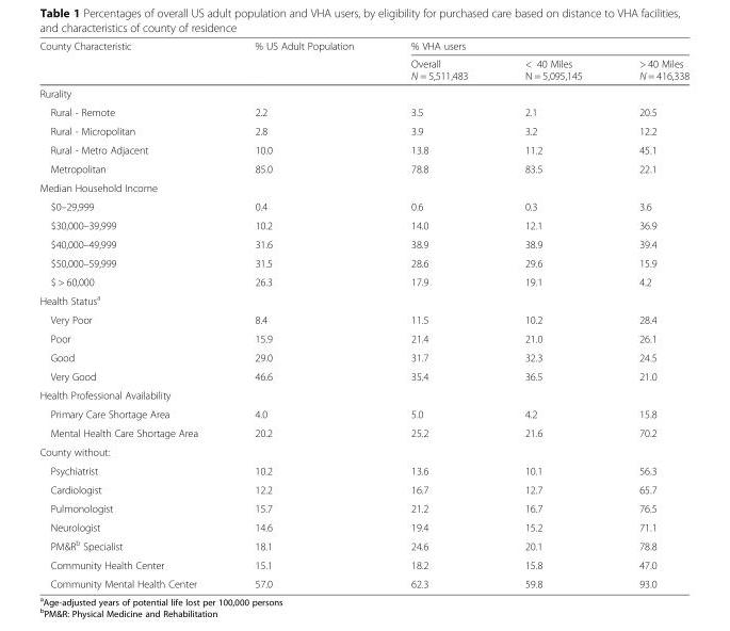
<table><thead><tr><td rowspan="2">County Characteristic</td><td rowspan="2">% US Adult Population</td><td colspan="3">% VHA users</td></tr><tr><td>Overall N = 5,511,483</td><td>&lt; 40 Miles N = 5,095,145</td><td>&gt; 40 Miles N = 416,338</td></tr></thead><tbody><tr><td colspan="5">Rurality</td></tr><tr><td>Rural - Remote</td><td>2.2</td><td>3.5</td><td>2.1</td><td>20.5</td></tr><tr><td>Rural - Micropolitan</td><td>2.8</td><td>3.9</td><td>3.2</td><td>12.2</td></tr><tr><td>Rural - Metro Adjacent</td><td>10.0</td><td>13.8</td><td>11.2</td><td>45.1</td></tr><tr><td>Metropolitan</td><td>85.0</td><td>78.8</td><td>83.5</td><td>22.1</td></tr><tr><td colspan="5">Median Household Income</td></tr><tr><td>$0–29,999</td><td>0.4</td><td>0.6</td><td>0.3</td><td>3.6</td></tr><tr><td>$30,000–39,999</td><td>10.2</td><td>14.0</td><td>12.1</td><td>36.9</td></tr><tr><td>$40,000–49,999</td><td>31.6</td><td>38.9</td><td>38.9</td><td>39.4</td></tr><tr><td>$50,000–59,999</td><td>31.5</td><td>28.6</td><td>29.6</td><td>15.9</td></tr><tr><td>$ &gt; 60,000</td><td>26.3</td><td>17.9</td><td>19.1</td><td>4.2</td></tr><tr><td colspan="5">Health Status<sup>a</sup></td></tr><tr><td>Very Poor</td><td>8.4</td><td>11.5</td><td>10.2</td><td>28.4</td></tr><tr><td>Poor</td><td>15.9</td><td>21.4</td><td>21.0</td><td>26.1</td></tr><tr><td>Good</td><td>29.0</td><td>31.7</td><td>32.3</td><td>24.5</td></tr><tr><td>Very Good</td><td>46.6</td><td>35.4</td><td>36.5</td><td>21.0</td></tr><tr><td colspan="5">Health Professional Availability</td></tr><tr><td>Primary Care Shortage Area</td><td>4.0</td><td>5.0</td><td>4.2</td><td>15.8</td></tr><tr><td>Mental Health Care Shortage Area</td><td>20.2</td><td>25.2</td><td>21.6</td><td>70.2</td></tr><tr><td colspan="5">County without:</td></tr><tr><td>Psychiatrist</td><td>10.2</td><td>13.6</td><td>10.1</td><td>56.3</td></tr><tr><td>Cardiologist</td><td>12.2</td><td>16.7</td><td>12.7</td><td>65.7</td></tr><tr><td>Pulmonologist</td><td>15.7</td><td>21.2</td><td>16.7</td><td>76.5</td></tr><tr><td>Neurologist</td><td>14.6</td><td>19.4</td><td>15.2</td><td>71.1</td></tr><tr><td>PM&amp;R<sup>b</sup> Specialist</td><td>18.1</td><td>24.6</td><td>20.1</td><td>78.8</td></tr><tr><td>Community Health Center</td><td>15.1</td><td>18.2</td><td>15.8</td><td>47.0</td></tr><tr><td>Community Mental Health Center</td><td>57.0</td><td>62.3</td><td>59.8</td><td>93.0</td></tr></tbody></table>